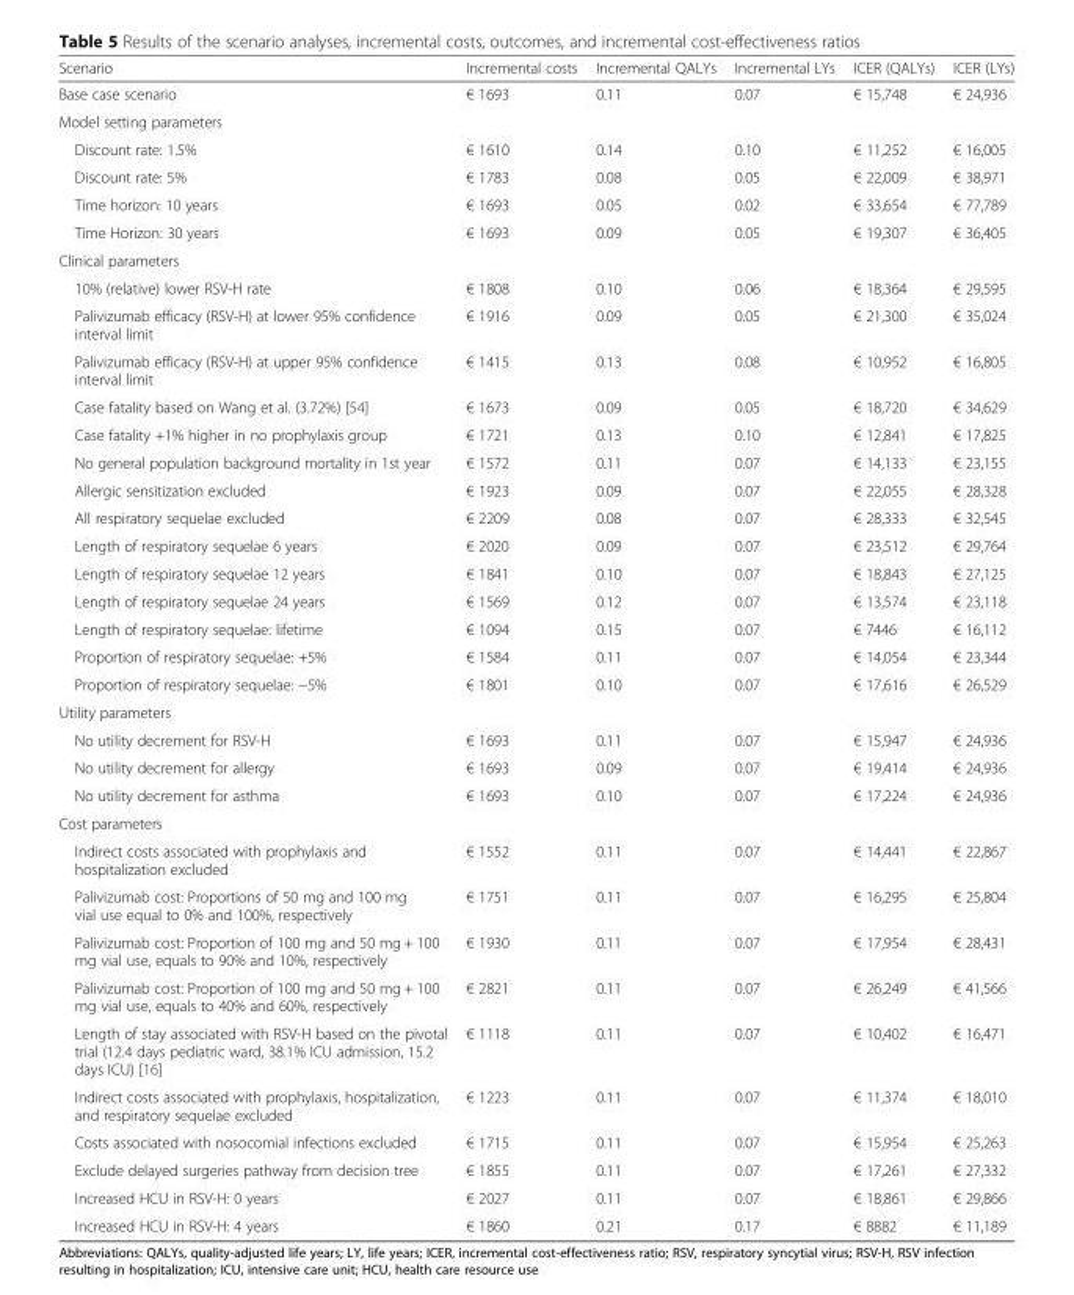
<table><thead><tr><td>Scenario</td><td>Incremental costs</td><td>Incremental QALYs</td><td>Incremental LYs</td><td>ICER (QALYs)</td><td>ICER (LYs)</td></tr></thead><tbody><tr><td>Base case scenario</td><td>€ 1693</td><td>0.11</td><td>0.07</td><td>€ 15,748</td><td>€ 24,936</td></tr><tr><td colspan="6">Model setting parameters</td></tr><tr><td>Discount rate: 1.5%</td><td>€ 1610</td><td>0.14</td><td>0.10</td><td>€ 11,252</td><td>€ 16,005</td></tr><tr><td>Discount rate: 5%</td><td>€ 1783</td><td>0.08</td><td>0.05</td><td>€ 22,009</td><td>€ 38,971</td></tr><tr><td>Time horizon: 10 years</td><td>€ 1693</td><td>0.05</td><td>0.02</td><td>€ 33,654</td><td>€ 77,789</td></tr><tr><td>Time Horizon: 30 years</td><td>€ 1693</td><td>0.09</td><td>0.05</td><td>€ 19,307</td><td>€ 36,405</td></tr><tr><td colspan="6">Clinical parameters</td></tr><tr><td>10% (relative) lower RSV-H rate</td><td>€ 1808</td><td>0.10</td><td>0.06</td><td>€ 18,364</td><td>€ 29,595</td></tr><tr><td>Palivizumab efficacy (RSV-H) at lower 95% confidence interval limit</td><td>€ 1916</td><td>0.09</td><td>0.05</td><td>€ 21,300</td><td>€ 35,024</td></tr><tr><td>Palivizumab efficacy (RSV-H) at upper 95% confidence interval limit</td><td>€ 1415</td><td>0.13</td><td>0.08</td><td>€ 10,952</td><td>€ 16,805</td></tr><tr><td>Case fatality based on Wang et al. (3.72%) [54]</td><td>€ 1673</td><td>0.09</td><td>0.05</td><td>€ 18,720</td><td>€ 34,629</td></tr><tr><td>Case fatality +1% higher in no prophylaxis group</td><td>€ 1721</td><td>0.13</td><td>0.10</td><td>€ 12,841</td><td>€ 17,825</td></tr><tr><td>No general population background mortality in 1st year</td><td>€ 1572</td><td>0.11</td><td>0.07</td><td>€ 14,133</td><td>€ 23,155</td></tr><tr><td>Allergic sensitization excluded</td><td>€ 1923</td><td>0.09</td><td>0.07</td><td>€ 22,055</td><td>€ 28,328</td></tr><tr><td>All respiratory sequelae excluded</td><td>€ 2209</td><td>0.08</td><td>0.07</td><td>€ 28,333</td><td>€ 32,545</td></tr><tr><td>Length of respiratory sequelae 6 years</td><td>€ 2020</td><td>0.09</td><td>0.07</td><td>€ 23,512</td><td>€ 29,764</td></tr><tr><td>Length of respiratory sequelae 12 years</td><td>€ 1841</td><td>0.10</td><td>0.07</td><td>€ 18,843</td><td>€ 27,125</td></tr><tr><td>Length of respiratory sequelae 24 years</td><td>€ 1569</td><td>0.12</td><td>0.07</td><td>€ 13,574</td><td>€ 23,118</td></tr><tr><td>Length of respiratory sequelae: lifetime</td><td>€ 1094</td><td>0.15</td><td>0.07</td><td>€ 7446</td><td>€ 16,112</td></tr><tr><td>Proportion of respiratory sequelae: +5%</td><td>€ 1584</td><td>0.11</td><td>0.07</td><td>€ 14,054</td><td>€ 23,344</td></tr><tr><td>Proportion of respiratory sequelae: −5%</td><td>€ 1801</td><td>0.10</td><td>0.07</td><td>€ 17,616</td><td>€ 26,529</td></tr><tr><td colspan="6">Utility parameters</td></tr><tr><td>No utility decrement for RSV-H</td><td>€ 1693</td><td>0.11</td><td>0.07</td><td>€ 15,947</td><td>€ 24,936</td></tr><tr><td>No utility decrement for allergy</td><td>€ 1693</td><td>0.09</td><td>0.07</td><td>€ 19,414</td><td>€ 24,936</td></tr><tr><td>No utility decrement for asthma</td><td>€ 1693</td><td>0.10</td><td>0.07</td><td>€ 17,224</td><td>€ 24,936</td></tr><tr><td colspan="6">Cost parameters</td></tr><tr><td>Indirect costs associated with prophylaxis and hospitalization excluded</td><td>€ 1552</td><td>0.11</td><td>0.07</td><td>€ 14,441</td><td>€ 22,867</td></tr><tr><td>Palivizumab cost: Proportions of 50 mg and 100 mg vial use equal to 0% and 100%, respectively</td><td>€ 1751</td><td>0.11</td><td>0.07</td><td>€ 16,295</td><td>€ 25,804</td></tr><tr><td>Palivizumab cost: Proportion of 100 mg and 50 mg + 100 mg vial use, equals to 90% and 10%, respectively</td><td>€ 1930</td><td>0.11</td><td>0.07</td><td>€ 17,954</td><td>€ 28,431</td></tr><tr><td>Palivizumab cost: Proportion of 100 mg and 50 mg + 100 mg vial use, equals to 40% and 60%, respectively</td><td>€ 2821</td><td>0.11</td><td>0.07</td><td>€ 26,249</td><td>€ 41,566</td></tr><tr><td>Length of stay associated with RSV-H based on the pivotal trial (12.4 days pediatric ward, 38.1% ICU admission, 15.2 days ICU) [16]</td><td>€ 1118</td><td>0.11</td><td>0.07</td><td>€ 10,402</td><td>€ 16,471</td></tr><tr><td>Indirect costs associated with prophylaxis, hospitalization, and respiratory sequelae excluded</td><td>€ 1223</td><td>0.11</td><td>0.07</td><td>€ 11,374</td><td>€ 18,010</td></tr><tr><td>Costs associated with nosocomial infections excluded</td><td>€ 1715</td><td>0.11</td><td>0.07</td><td>€ 15,954</td><td>€ 25,263</td></tr><tr><td>Exclude delayed surgeries pathway from decision tree</td><td>€ 1855</td><td>0.11</td><td>0.07</td><td>€ 17,261</td><td>€ 27,332</td></tr><tr><td>Increased HCU in RSV-H: 0 years</td><td>€ 2027</td><td>0.11</td><td>0.07</td><td>€ 18,861</td><td>€ 29,866</td></tr><tr><td>Increased HCU in RSV-H: 4 years</td><td>€ 1860</td><td>0.21</td><td>0.17</td><td>€ 8882</td><td>€ 11,189</td></tr></tbody></table>